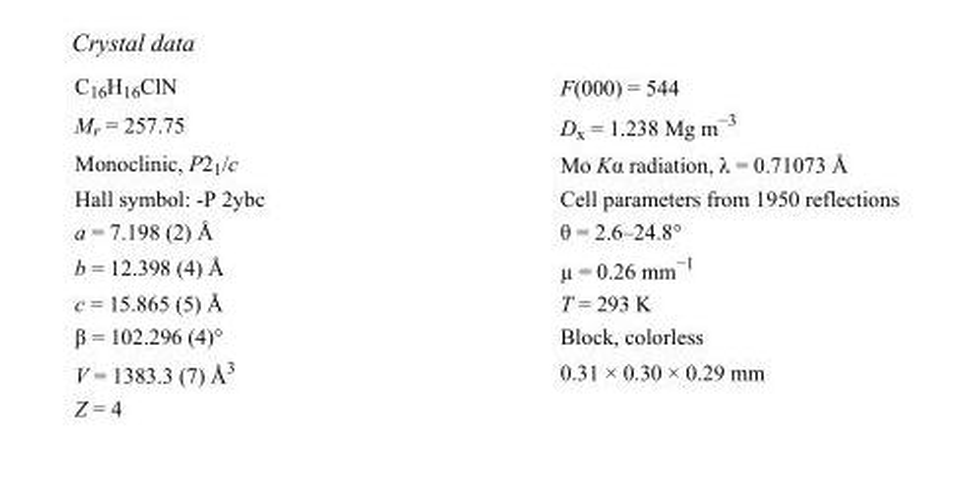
<table><tbody><tr><td>C<sub>16</sub>H<sub>16</sub>ClN</td><td>F(000) = 544</td></tr><tr><td>M<sub>r</sub> = 257.75</td><td>D<sub>x</sub> = 1.238 Mg m<sup>−3</sup></td></tr><tr><td>Monoclinic, P2<sub>1</sub>/c</td><td>Mo Kα radiation, λ = 0.71073 Å</td></tr><tr><td>Hall symbol: -P 2ybc</td><td>Cell parameters from 1950 reflections</td></tr><tr><td>a = 7.198 (2) Å</td><td>θ = 2.6–24.8°</td></tr><tr><td>b = 12.398 (4) Å</td><td>µ = 0.26 mm<sup>−1</sup></td></tr><tr><td>c = 15.865 (5) Å</td><td>T = 293 K</td></tr><tr><td>β = 102.296 (4)°</td><td>Block, colorless</td></tr><tr><td>V = 1383.3 (7) Å<sup>3</sup></td><td>0.31 × 0.30 × 0.29 mm</td></tr><tr><td>Z = 4</td><td></td></tr></tbody></table>